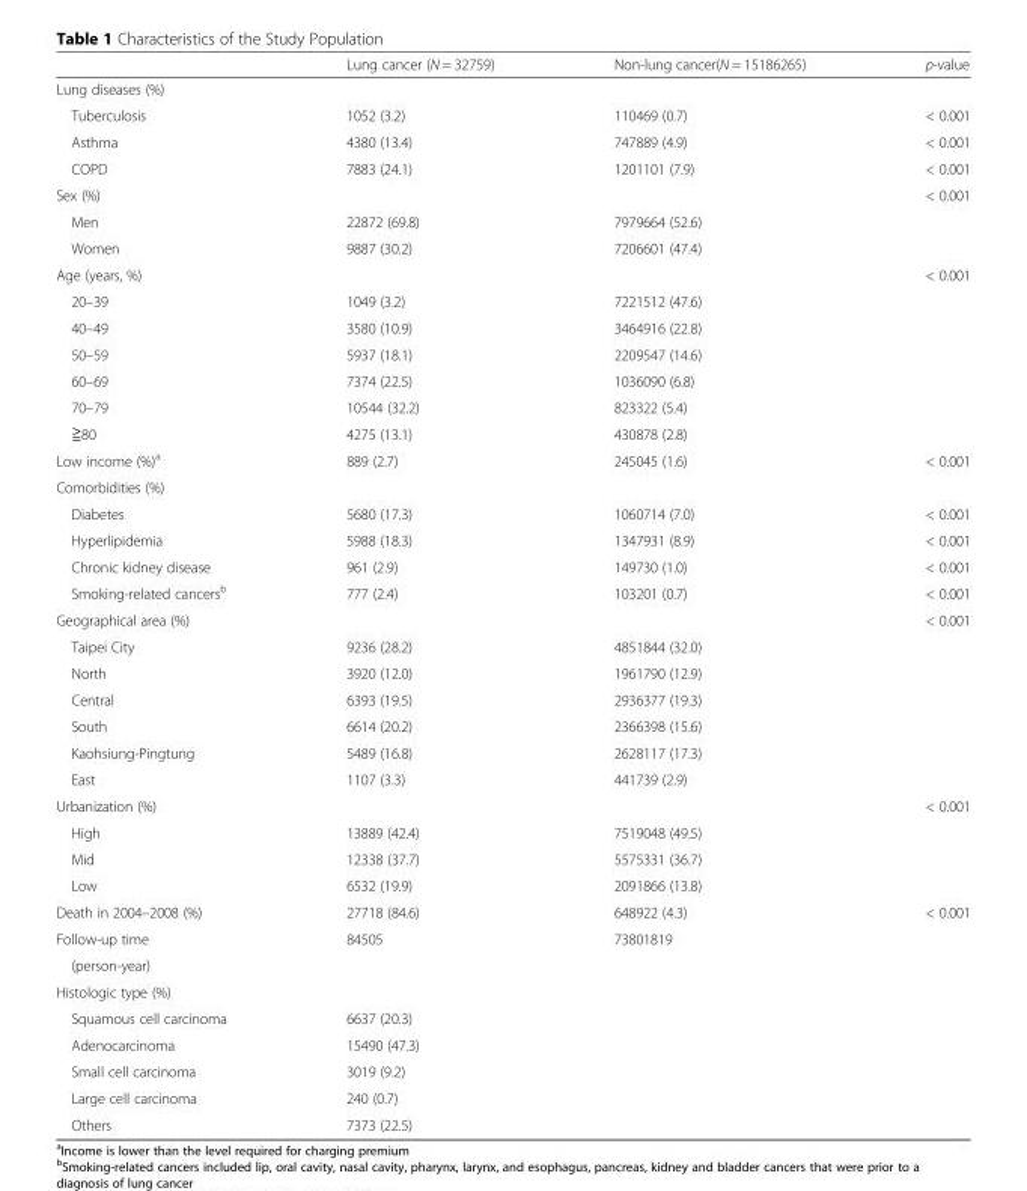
<table><thead><tr><td></td><td>Lung cancer (N = 32759)</td><td>Non-lung cancer(N = 15186265)</td><td>p-value</td></tr></thead><tbody><tr><td colspan="4">Lung diseases (%)</td></tr><tr><td>Tuberculosis</td><td>1052 (3.2)</td><td>110469 (0.7)</td><td>&lt; 0.001</td></tr><tr><td>Asthma</td><td>4380 (13.4)</td><td>747889 (4.9)</td><td>&lt; 0.001</td></tr><tr><td>COPD</td><td>7883 (24.1)</td><td>1201101 (7.9)</td><td>&lt; 0.001</td></tr><tr><td>Sex (%)</td><td></td><td></td><td>&lt; 0.001</td></tr><tr><td>Men</td><td>22872 (69.8)</td><td>7979664 (52.6)</td><td></td></tr><tr><td>Women</td><td>9887 (30.2)</td><td>7206601 (47.4)</td><td></td></tr><tr><td>Age (years, %)</td><td></td><td></td><td>&lt; 0.001</td></tr><tr><td>20–39</td><td>1049 (3.2)</td><td>7221512 (47.6)</td><td></td></tr><tr><td>40–49</td><td>3580 (10.9)</td><td>3464916 (22.8)</td><td></td></tr><tr><td>50–59</td><td>5937 (18.1)</td><td>2209547 (14.6)</td><td></td></tr><tr><td>60–69</td><td>7374 (22.5)</td><td>1036090 (6.8)</td><td></td></tr><tr><td>70–79</td><td>10544 (32.2)</td><td>823322 (5.4)</td><td></td></tr><tr><td>≧80</td><td>4275 (13.1)</td><td>430878 (2.8)</td><td></td></tr><tr><td>Low income (%)<sup>a</sup></td><td>889 (2.7)</td><td>245045 (1.6)</td><td>&lt; 0.001</td></tr><tr><td colspan="4">Comorbidities (%)</td></tr><tr><td>Diabetes</td><td>5680 (17.3)</td><td>1060714 (7.0)</td><td>&lt; 0.001</td></tr><tr><td>Hyperlipidemia</td><td>5988 (18.3)</td><td>1347931 (8.9)</td><td>&lt; 0.001</td></tr><tr><td>Chronic kidney disease</td><td>961 (2.9)</td><td>149730 (1.0)</td><td>&lt; 0.001</td></tr><tr><td>Smoking-related cancers<sup>b</sup></td><td>777 (2.4)</td><td>103201 (0.7)</td><td>&lt; 0.001</td></tr><tr><td>Geographical area (%)</td><td></td><td></td><td>&lt; 0.001</td></tr><tr><td>Taipei City</td><td>9236 (28.2)</td><td>4851844 (32.0)</td><td></td></tr><tr><td>North</td><td>3920 (12.0)</td><td>1961790 (12.9)</td><td></td></tr><tr><td>Central</td><td>6393 (19.5)</td><td>2936377 (19.3)</td><td></td></tr><tr><td>South</td><td>6614 (20.2)</td><td>2366398 (15.6)</td><td></td></tr><tr><td>Kaohsiung-Pingtung</td><td>5489 (16.8)</td><td>2628117 (17.3)</td><td></td></tr><tr><td>East</td><td>1107 (3.3)</td><td>441739 (2.9)</td><td></td></tr><tr><td>Urbanization (%)</td><td></td><td></td><td>&lt; 0.001</td></tr><tr><td>High</td><td>13889 (42.4)</td><td>7519048 (49.5)</td><td></td></tr><tr><td>Mid</td><td>12338 (37.7)</td><td>5575331 (36.7)</td><td></td></tr><tr><td>Low</td><td>6532 (19.9)</td><td>2091866 (13.8)</td><td></td></tr><tr><td>Death in 2004–2008 (%)</td><td>27718 (84.6)</td><td>648922 (4.3)</td><td>&lt; 0.001</td></tr><tr><td>Follow-up time</td><td rowspan="2">84505</td><td rowspan="2">73801819</td><td rowspan="2"></td></tr><tr><td>(person-year)</td></tr><tr><td colspan="4">Histologic type (%)</td></tr><tr><td>Squamous cell carcinoma</td><td>6637 (20.3)</td><td></td><td></td></tr><tr><td>Adenocarcinoma</td><td>15490 (47.3)</td><td></td><td></td></tr><tr><td>Small cell carcinoma</td><td>3019 (9.2)</td><td></td><td></td></tr><tr><td>Large cell carcinoma</td><td>240 (0.7)</td><td></td><td></td></tr><tr><td>Others</td><td>7373 (22.5)</td><td></td><td></td></tr></tbody></table>